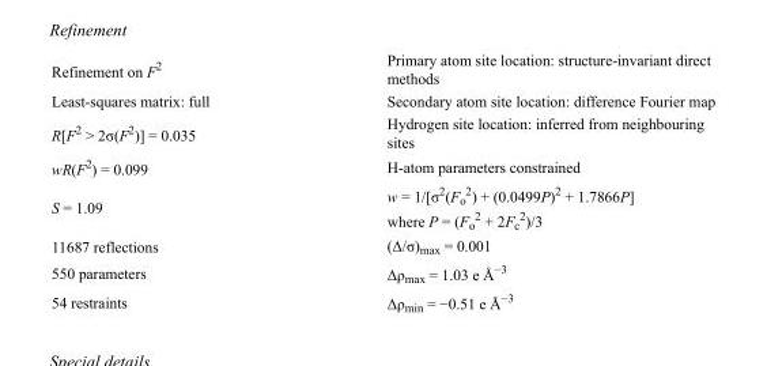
<table><tbody><tr><td>Refinement on F<sup>2</sup></td><td>Primary atom site location: structure-invariant direct methods</td></tr><tr><td>Least-squares matrix: full</td><td>Secondary atom site location: difference Fourier map</td></tr><tr><td>R[F<sup>2</sup> &gt; 2σ(F<sup>2</sup>)] = 0.035</td><td>Hydrogen site location: inferred from neighbouring sites</td></tr><tr><td>wR(F<sup>2</sup>) = 0.099</td><td>H-atom parameters constrained</td></tr><tr><td>S = 1.09</td><td>w = 1/[σ<sup>2</sup>(F<sub>o</sub> <sup>2</sup>) + (0.0499P)<sup>2</sup> + 1.7866P] where P = (F<sub>o</sub> <sup>2</sup> + 2F<sub>c</sub> <sup>2</sup>)/3</td></tr><tr><td>11687 reflections</td><td>(Δ/σ)<sub>max</sub> = 0.001</td></tr><tr><td>550 parameters</td><td>Δρ<sub>max</sub> = 1.03 e Å<sup>−3</sup></td></tr><tr><td>54 restraints</td><td>Δρ<sub>min</sub> = −0.51 e Å<sup>−3</sup></td></tr></tbody></table>